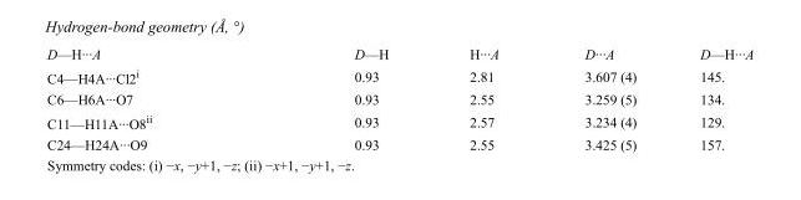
<table><tbody><tr><td>D—H···A</td><td>D—H</td><td>H···A</td><td>D···A</td><td>D—H···A</td></tr><tr><td>C4—H4A···Cl2<sup>i</sup></td><td>0.93</td><td>2.81</td><td>3.607 (4)</td><td>145.</td></tr><tr><td>C6—H6A···O7</td><td>0.93</td><td>2.55</td><td>3.259 (5)</td><td>134.</td></tr><tr><td>C11—H11A···O8<sup>ii</sup></td><td>0.93</td><td>2.57</td><td>3.234 (4)</td><td>129.</td></tr><tr><td>C24—H24A···O9</td><td>0.93</td><td>2.55</td><td>3.425 (5)</td><td>157.</td></tr></tbody></table>